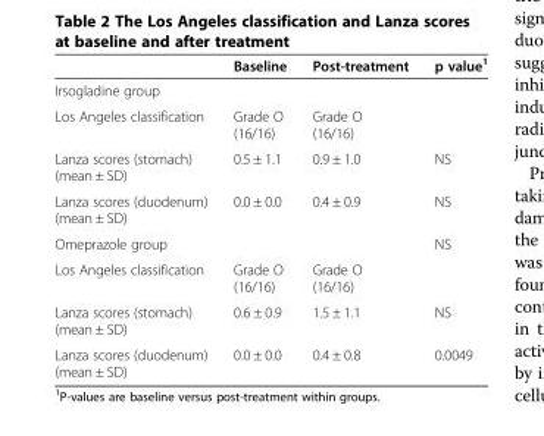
<table><thead><tr><td></td><td>Baseline</td><td>Post-treatment</td><td>p value<sup>1</sup></td></tr></thead><tbody><tr><td colspan="4">Irsogladine group</td></tr><tr><td>Los Angeles classification</td><td>Grade O (16/16)</td><td>Grade O (16/16)</td><td></td></tr><tr><td>Lanza scores (stomach) (mean ± SD)</td><td>0.5 ± 1.1</td><td>0.9 ± 1.0</td><td>NS</td></tr><tr><td>Lanza scores (duodenum) (mean ± SD)</td><td>0.0 ± 0.0</td><td>0.4 ± 0.9</td><td>NS</td></tr><tr><td>Omeprazole group</td><td></td><td></td><td>NS</td></tr><tr><td>Los Angeles classification</td><td>Grade O (16/16)</td><td>Grade O (16/16)</td><td></td></tr><tr><td>Lanza scores (stomach) (mean ± SD)</td><td>0.6 ± 0.9</td><td>1.5 ± 1.1</td><td>NS</td></tr><tr><td>Lanza scores (duodenum) (mean ± SD)</td><td>0.0 ± 0.0</td><td>0.4 ± 0.8</td><td>0.0049</td></tr></tbody></table>